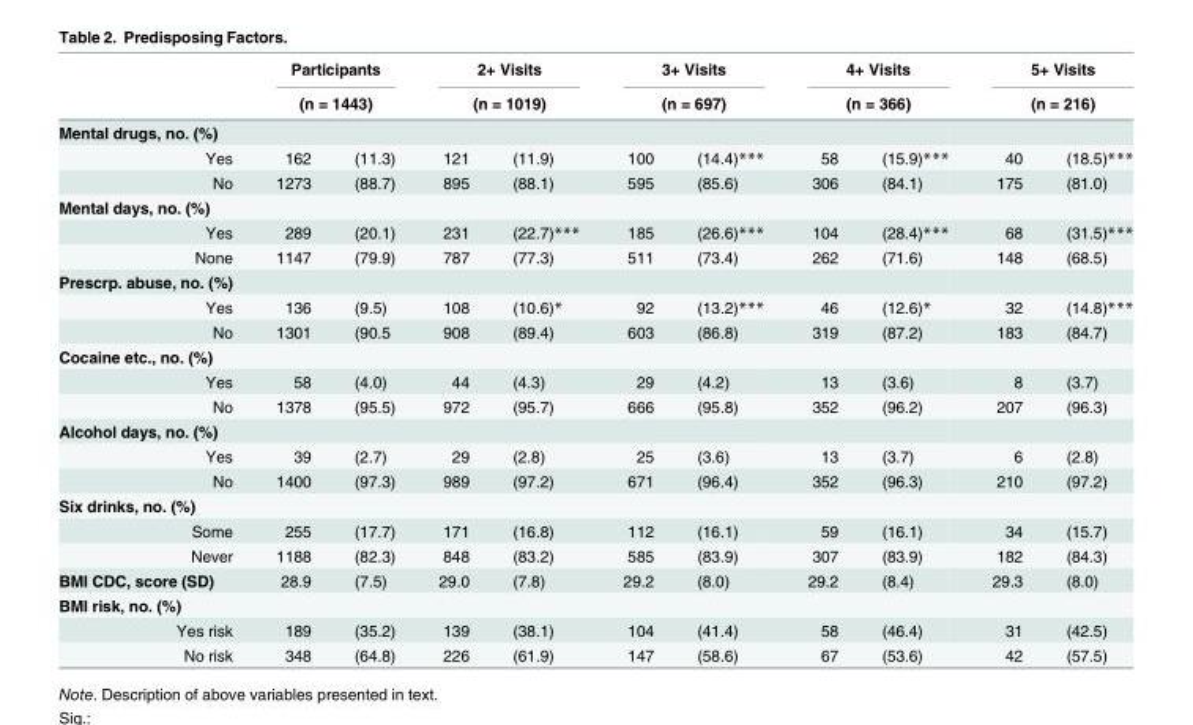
<table><thead><tr><td rowspan="3">Mental drugs, no. (%)</td><td rowspan="2" colspan="2">Participants (n = 1443)</td><td rowspan="2" colspan="2">2+ Visits (n = 1019)</td><td rowspan="2" colspan="2">3+ Visits (n = 697)</td><td rowspan="2" colspan="2">4+ Visits (n = 366)</td><td rowspan="2" colspan="2">5+ Visits (n = 216)</td></tr><tr></tr><tr><td></td><td></td><td></td><td></td><td></td><td></td><td></td><td></td><td></td><td></td></tr></thead><tbody><tr><td>Yes</td><td>162</td><td>(11.3)</td><td>121</td><td>(11.9)</td><td>100</td><td>(14.4)***</td><td>58</td><td>(15.9)***</td><td>40</td><td>(18.5)***</td></tr><tr><td>No</td><td>1273</td><td>(88.7)</td><td>895</td><td>(88.1)</td><td>595</td><td>(85.6)</td><td>306</td><td>(84.1)</td><td>175</td><td>(81.0)</td></tr><tr><td colspan="11">Mental days, no. (%)</td></tr><tr><td>Yes</td><td>289</td><td>(20.1)</td><td>231</td><td>(22.7)***</td><td>185</td><td>(26.6)***</td><td>104</td><td>(28.4)***</td><td>68</td><td>(31.5)***</td></tr><tr><td>None</td><td>1147</td><td>(79.9)</td><td>787</td><td>(77.3)</td><td>511</td><td>(73.4)</td><td>262</td><td>(71.6)</td><td>148</td><td>(68.5)</td></tr><tr><td colspan="11">Prescrp. abuse, no. (%)</td></tr><tr><td>Yes</td><td>136</td><td>(9.5)</td><td>108</td><td>(10.6)*</td><td>92</td><td>(13.2)***</td><td>46</td><td>(12.6)*</td><td>32</td><td>(14.8)***</td></tr><tr><td>No</td><td>1301</td><td>(90.5</td><td>908</td><td>(89.4)</td><td>603</td><td>(86.8)</td><td>319</td><td>(87.2)</td><td>183</td><td>(84.7)</td></tr><tr><td colspan="11">Cocaine etc., no. (%)</td></tr><tr><td>Yes</td><td>58</td><td>(4.0)</td><td>44</td><td>(4.3)</td><td>29</td><td>(4.2)</td><td>13</td><td>(3.6)</td><td>8</td><td>(3.7)</td></tr><tr><td>No</td><td>1378</td><td>(95.5)</td><td>972</td><td>(95.7)</td><td>666</td><td>(95.8)</td><td>352</td><td>(96.2)</td><td>207</td><td>(96.3)</td></tr><tr><td colspan="11">Alcohol days, no. (%)</td></tr><tr><td>Yes</td><td>39</td><td>(2.7)</td><td>29</td><td>(2.8)</td><td>25</td><td>(3.6)</td><td>13</td><td>(3.7)</td><td>6</td><td>(2.8)</td></tr><tr><td>No</td><td>1400</td><td>(97.3)</td><td>989</td><td>(97.2)</td><td>671</td><td>(96.4)</td><td>352</td><td>(96.3)</td><td>210</td><td>(97.2)</td></tr><tr><td colspan="11">Six drinks, no. (%)</td></tr><tr><td>Some</td><td>255</td><td>(17.7)</td><td>171</td><td>(16.8)</td><td>112</td><td>(16.1)</td><td>59</td><td>(16.1)</td><td>34</td><td>(15.7)</td></tr><tr><td>Never</td><td>1188</td><td>(82.3)</td><td>848</td><td>(83.2)</td><td>585</td><td>(83.9)</td><td>307</td><td>(83.9)</td><td>182</td><td>(84.3)</td></tr><tr><td>BMI CDC, score (SD)</td><td>28.9</td><td>(7.5)</td><td>29.0</td><td>(7.8)</td><td>29.2</td><td>(8.0)</td><td>29.2</td><td>(8.4)</td><td>29.3</td><td>(8.0)</td></tr><tr><td colspan="11">BMI risk, no. (%)</td></tr><tr><td>Yes risk</td><td>189</td><td>(35.2)</td><td>139</td><td>(38.1)</td><td>104</td><td>(41.4)</td><td>58</td><td>(46.4)</td><td>31</td><td>(42.5)</td></tr><tr><td>No risk</td><td>348</td><td>(64.8)</td><td>226</td><td>(61.9)</td><td>147</td><td>(58.6)</td><td>67</td><td>(53.6)</td><td>42</td><td>(57.5)</td></tr></tbody></table>